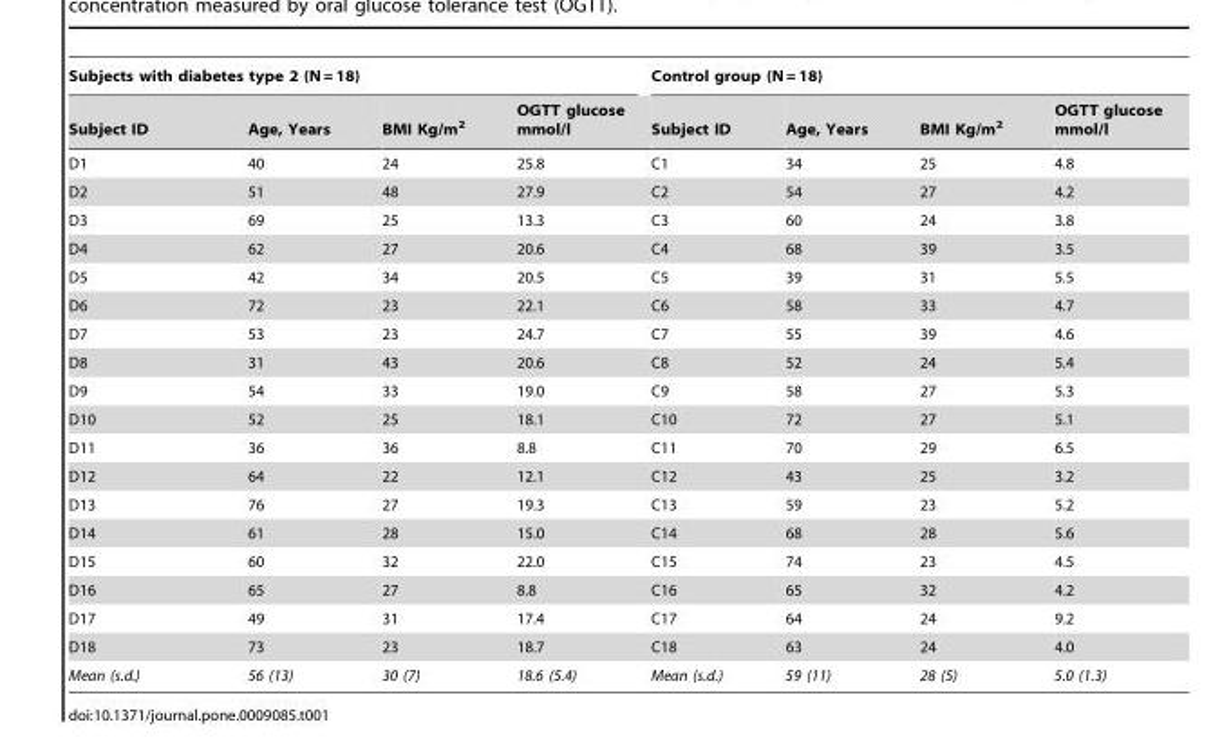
<table><thead><tr><td colspan="4">Subjects with diabetes type 2 (N = 18)</td><td colspan="4">Control group (N = 18)</td></tr><tr><td>Subject ID</td><td>Age, Years</td><td>BMI Kg/m<sup>2</sup></td><td>OGTT glucose mmol/l</td><td>Subject ID</td><td>Age, Years</td><td>BMI Kg/m<sup>2</sup></td><td>OGTT glucose mmol/l</td></tr></thead><tbody><tr><td>D1</td><td>40</td><td>24</td><td>25.8</td><td>C1</td><td>34</td><td>25</td><td>4.8</td></tr><tr><td>D2</td><td>51</td><td>48</td><td>27.9</td><td>C2</td><td>54</td><td>27</td><td>4.2</td></tr><tr><td>D3</td><td>69</td><td>25</td><td>13.3</td><td>C3</td><td>60</td><td>24</td><td>3.8</td></tr><tr><td>D4</td><td>62</td><td>27</td><td>20.6</td><td>C4</td><td>68</td><td>39</td><td>3.5</td></tr><tr><td>D5</td><td>42</td><td>34</td><td>20.5</td><td>C5</td><td>39</td><td>31</td><td>5.5</td></tr><tr><td>D6</td><td>72</td><td>23</td><td>22.1</td><td>C6</td><td>58</td><td>33</td><td>4.7</td></tr><tr><td>D7</td><td>53</td><td>23</td><td>24.7</td><td>C7</td><td>55</td><td>39</td><td>4.6</td></tr><tr><td>D8</td><td>31</td><td>43</td><td>20.6</td><td>C8</td><td>52</td><td>24</td><td>5.4</td></tr><tr><td>D9</td><td>54</td><td>33</td><td>19.0</td><td>C9</td><td>58</td><td>27</td><td>5.3</td></tr><tr><td>D10</td><td>52</td><td>25</td><td>18.1</td><td>C10</td><td>72</td><td>27</td><td>5.1</td></tr><tr><td>D11</td><td>36</td><td>36</td><td>8.8</td><td>C11</td><td>70</td><td>29</td><td>6.5</td></tr><tr><td>D12</td><td>64</td><td>22</td><td>12.1</td><td>C12</td><td>43</td><td>25</td><td>3.2</td></tr><tr><td>D13</td><td>76</td><td>27</td><td>19.3</td><td>C13</td><td>59</td><td>23</td><td>5.2</td></tr><tr><td>D14</td><td>61</td><td>28</td><td>15.0</td><td>C14</td><td>68</td><td>28</td><td>5.6</td></tr><tr><td>D15</td><td>60</td><td>32</td><td>22.0</td><td>C15</td><td>74</td><td>23</td><td>4.5</td></tr><tr><td>D16</td><td>65</td><td>27</td><td>8.8</td><td>C16</td><td>65</td><td>32</td><td>4.2</td></tr><tr><td>D17</td><td>49</td><td>31</td><td>17.4</td><td>C17</td><td>64</td><td>24</td><td>9.2</td></tr><tr><td>D18</td><td>73</td><td>23</td><td>18.7</td><td>C18</td><td>63</td><td>24</td><td>4.0</td></tr><tr><td>Mean (s.d.)</td><td>56 (13)</td><td>30 (7)</td><td>18.6 (5.4)</td><td>Mean (s.d.)</td><td>59 (11)</td><td>28 (5)</td><td>5.0 (1.3)</td></tr></tbody></table>